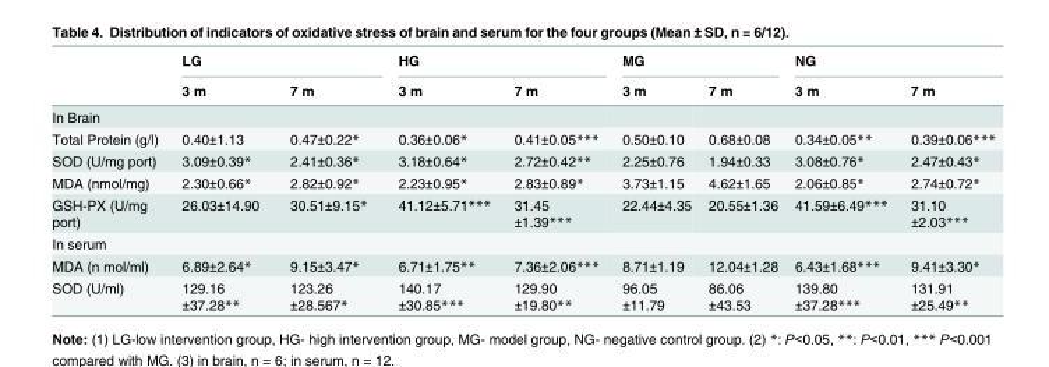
<table><thead><tr><td rowspan="2"></td><td colspan="2">LG</td><td colspan="2">HG</td><td colspan="2">MG</td><td colspan="2">NG</td></tr><tr><td>3 m</td><td>7 m</td><td>3 m</td><td>7 m</td><td>3 m</td><td>7 m</td><td>3 m</td><td>7 m</td></tr></thead><tbody><tr><td colspan="9">In Brain</td></tr><tr><td>Total Protein (g/l)</td><td>0.40±1.13</td><td>0.47±0.22*</td><td>0.36±0.06*</td><td>0.41±0.05***</td><td>0.50±0.10</td><td>0.68±0.08</td><td>0.34±0.05**</td><td>0.39±0.06***</td></tr><tr><td>SOD (U/mg port)</td><td>3.09±0.39*</td><td>2.41±0.36*</td><td>3.18±0.64*</td><td>2.72±0.42**</td><td>2.25±0.76</td><td>1.94±0.33</td><td>3.08±0.76*</td><td>2.47±0.43*</td></tr><tr><td>MDA (nmol/mg)</td><td>2.30±0.66*</td><td>2.82±0.92*</td><td>2.23±0.95*</td><td>2.83±0.89*</td><td>3.73±1.15</td><td>4.62±1.65</td><td>2.06±0.85*</td><td>2.74±0.72*</td></tr><tr><td>GSH-PX (U/mg port)</td><td>26.03±14.90</td><td>30.51±9.15*</td><td>41.12±5.71***</td><td>31.45 ±1.39***</td><td>22.44±4.35</td><td>20.55±1.36</td><td>41.59±6.49***</td><td>31.10 ±2.03***</td></tr><tr><td colspan="9">In serum</td></tr><tr><td>MDA (n mol/ml)</td><td>6.89±2.64*</td><td>9.15±3.47*</td><td>6.71±1.75**</td><td>7.36±2.06***</td><td>8.71±1.19</td><td>12.04±1.28</td><td>6.43±1.68***</td><td>9.41±3.30*</td></tr><tr><td>SOD (U/ml)</td><td>129.16 ±37.28**</td><td>123.26 ±28.567*</td><td>140.17 ±30.85***</td><td>129.90 ±19.80**</td><td>96.05 ±11.79</td><td>86.06 ±43.53</td><td>139.80 ±37.28***</td><td>131.91 ±25.49**</td></tr></tbody></table>